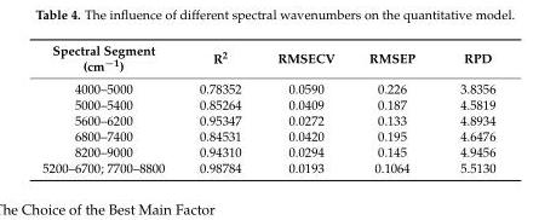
<table><thead><tr><td>Spectral Segment (cm<sup>−1</sup>)</td><td>R<sup>2</sup></td><td>RMSECV</td><td>RMSEP</td><td>RPD</td></tr></thead><tbody><tr><td>4000–5000</td><td>0.78352</td><td>0.0590</td><td>0.226</td><td>3.8356</td></tr><tr><td>5000–5400</td><td>0.85264</td><td>0.0409</td><td>0.187</td><td>4.5819</td></tr><tr><td>5600–6200</td><td>0.95347</td><td>0.0272</td><td>0.133</td><td>4.8934</td></tr><tr><td>6800–7400</td><td>0.84531</td><td>0.0420</td><td>0.195</td><td>4.6476</td></tr><tr><td>8200–9000</td><td>0.94310</td><td>0.0294</td><td>0.145</td><td>4.9456</td></tr><tr><td>5200–6700; 7700–8800</td><td>0.98784</td><td>0.0193</td><td>0.1064</td><td>5.5130</td></tr></tbody></table>